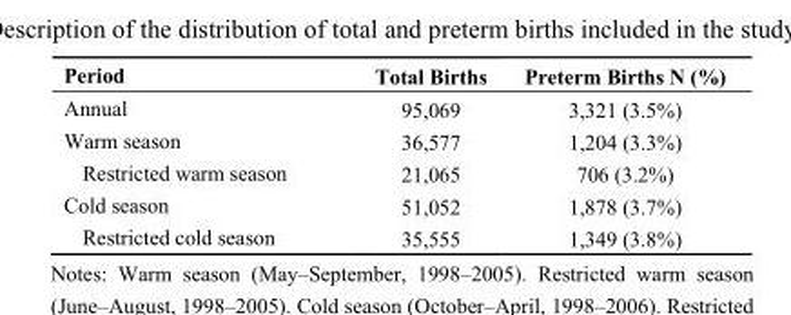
<table><thead><tr><td>Period</td><td>Total Births</td><td>Preterm Births N (%)</td></tr></thead><tbody><tr><td>Annual</td><td>95,069</td><td>3,321 (3.5%)</td></tr><tr><td>Warm season</td><td>36,577</td><td>1,204 (3.3%)</td></tr><tr><td>Restricted warm season</td><td>21,065</td><td>706 (3.2%)</td></tr><tr><td>Cold season</td><td>51,052</td><td>1,878 (3.7%)</td></tr><tr><td>Restricted cold season</td><td>35,555</td><td>1,349 (3.8%)</td></tr></tbody></table>